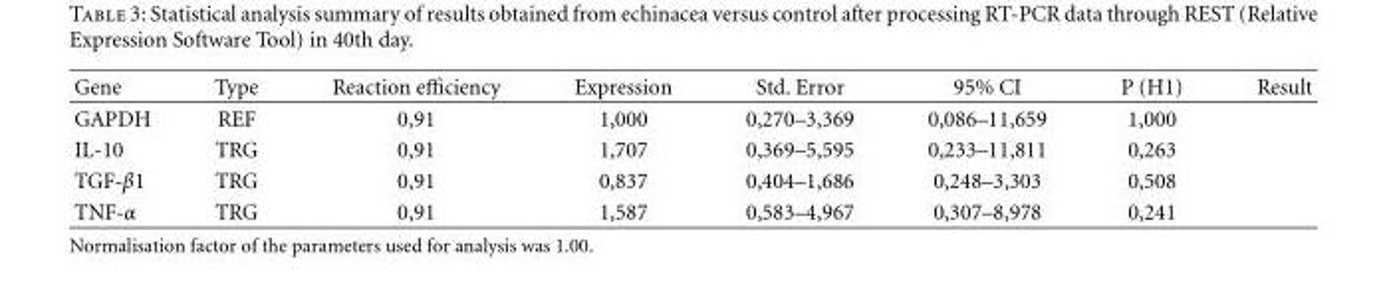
<table><thead><tr><td>Gene</td><td>Type</td><td>Reaction efficiency</td><td>Expression</td><td>Std. Error</td><td>95% CI</td><td>P (H1)</td><td>Result</td></tr></thead><tbody><tr><td>GAPDH</td><td>REF</td><td>0,91</td><td>1,000</td><td>0,270–3,369</td><td>0,086–11,659</td><td>1,000</td><td></td></tr><tr><td>IL-10</td><td>TRG</td><td>0,91</td><td>1,707</td><td>0,369–5,595</td><td>0,233–11,811</td><td>0,263</td><td></td></tr><tr><td>TGF-β1</td><td>TRG</td><td>0,91</td><td>0,837</td><td>0,404–1,686</td><td>0,248–3,303</td><td>0,508</td><td></td></tr><tr><td>TNF-α</td><td>TRG</td><td>0,91</td><td>1,587</td><td>0,583–4,967</td><td>0,307–8,978</td><td>0,241</td><td></td></tr></tbody></table>